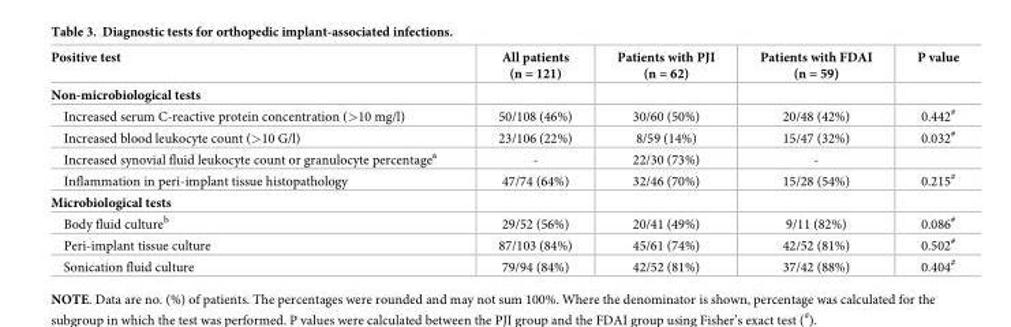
<table><thead><tr><td>Positive test</td><td>All patients (n = 121)</td><td>Patients with PJI (n = 62)</td><td>Patients with FDAI (n = 59)</td><td>P value</td></tr></thead><tbody><tr><td colspan="5">Non-microbiological tests</td></tr><tr><td>Increased serum C-reactive protein concentration (&gt;10 mg/l)</td><td>50/108 (46%)</td><td>30/60 (50%)</td><td>20/48 (42%)</td><td>0.442<sup>#</sup></td></tr><tr><td>Increased blood leukocyte count (&gt;10 G/l)</td><td>23/106 (22%)</td><td>8/59 (14%)</td><td>15/47 (32%)</td><td>0.032<sup>#</sup></td></tr><tr><td>Increased synovial fluid leukocyte count or granulocyte percentage<sup>a</sup></td><td>-</td><td>22/30 (73%)</td><td>-</td><td></td></tr><tr><td>Inflammation in peri-implant tissue histopathology</td><td>47/74 (64%)</td><td>32/46 (70%)</td><td>15/28 (54%)</td><td>0.215<sup>#</sup></td></tr><tr><td colspan="5">Microbiological tests</td></tr><tr><td>Body fluid culture<sup>b</sup></td><td>29/52 (56%)</td><td>20/41 (49%)</td><td>9/11 (82%)</td><td>0.086<sup>#</sup></td></tr><tr><td>Peri-implant tissue culture</td><td>87/103 (84%)</td><td>45/61 (74%)</td><td>42/52 (81%)</td><td>0.502<sup>#</sup></td></tr><tr><td>Sonication fluid culture</td><td>79/94 (84%)</td><td>42/52 (81%)</td><td>37/42 (88%)</td><td>0.404<sup>#</sup></td></tr></tbody></table>